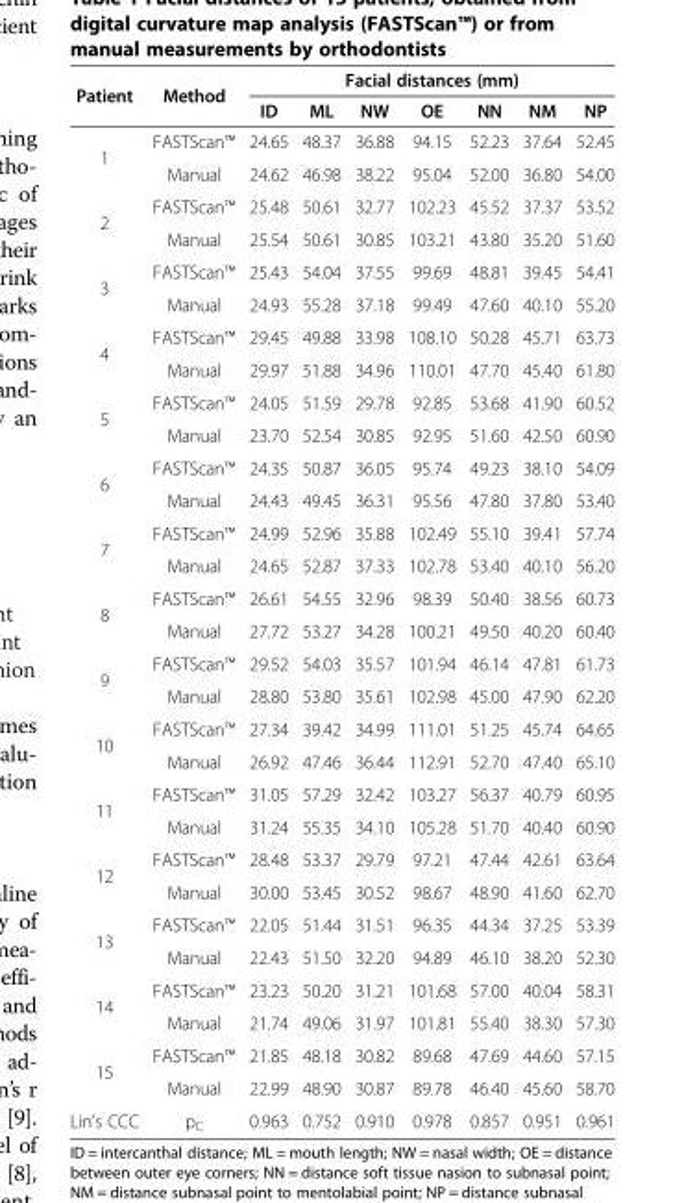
<table><thead><tr><td rowspan="2">Patient</td><td rowspan="2">Method</td><td colspan="7">Facial distances (mm)</td></tr><tr><td>ID</td><td>ML</td><td>NW</td><td>OE</td><td>NN</td><td>NM</td><td>NP</td></tr></thead><tbody><tr><td rowspan="2">1</td><td>FASTScan™</td><td>24.65</td><td>48.37</td><td>36.88</td><td>94.15</td><td>52.23</td><td>37.64</td><td>52.45</td></tr><tr><td>Manual</td><td>24.62</td><td>46.98</td><td>38.22</td><td>95.04</td><td>52.00</td><td>36.80</td><td>54.00</td></tr><tr><td rowspan="2">2</td><td>FASTScan™</td><td>25.48</td><td>50.61</td><td>32.77</td><td>102.23</td><td>45.52</td><td>37.37</td><td>53.52</td></tr><tr><td>Manual</td><td>25.54</td><td>50.61</td><td>30.85</td><td>103.21</td><td>43.80</td><td>35.20</td><td>51.60</td></tr><tr><td rowspan="2">3</td><td>FASTScan™</td><td>25.43</td><td>54.04</td><td>37.55</td><td>99.69</td><td>48.81</td><td>39.45</td><td>54.41</td></tr><tr><td>Manual</td><td>24.93</td><td>55.28</td><td>37.18</td><td>99.49</td><td>47.60</td><td>40.10</td><td>55.20</td></tr><tr><td rowspan="2">4</td><td>FASTScan™</td><td>29.45</td><td>49.88</td><td>33.98</td><td>108.10</td><td>50.28</td><td>45.71</td><td>63.73</td></tr><tr><td>Manual</td><td>29.97</td><td>51.88</td><td>34.96</td><td>110.01</td><td>47.70</td><td>45.40</td><td>61.80</td></tr><tr><td rowspan="2">5</td><td>FASTScan™</td><td>24.05</td><td>51.59</td><td>29.78</td><td>92.85</td><td>53.68</td><td>41.90</td><td>60.52</td></tr><tr><td>Manual</td><td>23.70</td><td>52.54</td><td>30.85</td><td>92.95</td><td>51.60</td><td>42.50</td><td>60.90</td></tr><tr><td rowspan="2">6</td><td>FASTScan™</td><td>24.35</td><td>50.87</td><td>36.05</td><td>95.74</td><td>49.23</td><td>38.10</td><td>54.09</td></tr><tr><td>Manual</td><td>24.43</td><td>49.45</td><td>36.31</td><td>95.56</td><td>47.80</td><td>37.80</td><td>53.40</td></tr><tr><td rowspan="2">7</td><td>FASTScan™</td><td>24.99</td><td>52.96</td><td>35.88</td><td>102.49</td><td>55.10</td><td>39.41</td><td>57.74</td></tr><tr><td>Manual</td><td>24.65</td><td>52.87</td><td>37.33</td><td>102.78</td><td>53.40</td><td>40.10</td><td>56.20</td></tr><tr><td rowspan="2">8</td><td>FASTScan™</td><td>26.61</td><td>54.55</td><td>32.96</td><td>98.39</td><td>50.40</td><td>38.56</td><td>60.73</td></tr><tr><td>Manual</td><td>27.72</td><td>53.27</td><td>34.28</td><td>100.21</td><td>49.50</td><td>40.20</td><td>60.40</td></tr><tr><td rowspan="2">9</td><td>FASTScan™</td><td>29.52</td><td>54.03</td><td>35.57</td><td>101.94</td><td>46.14</td><td>47.81</td><td>61.73</td></tr><tr><td>Manual</td><td>28.80</td><td>53.80</td><td>35.61</td><td>102.98</td><td>45.00</td><td>47.90</td><td>62.20</td></tr><tr><td rowspan="2">10</td><td>FASTScan™</td><td>27.34</td><td>39.42</td><td>34.99</td><td>111.01</td><td>51.25</td><td>45.74</td><td>64.65</td></tr><tr><td>Manual</td><td>26.92</td><td>47.46</td><td>36.44</td><td>112.91</td><td>52.70</td><td>47.40</td><td>65.10</td></tr><tr><td rowspan="2">11</td><td>FASTScan™</td><td>31.05</td><td>57.29</td><td>32.42</td><td>103.27</td><td>56.37</td><td>40.79</td><td>60.95</td></tr><tr><td>Manual</td><td>31.24</td><td>55.35</td><td>34.10</td><td>105.28</td><td>51.70</td><td>40.40</td><td>60.90</td></tr><tr><td rowspan="2">12</td><td>FASTScan™</td><td>28.48</td><td>53.37</td><td>29.79</td><td>97.21</td><td>47.44</td><td>42.61</td><td>63.64</td></tr><tr><td>Manual</td><td>30.00</td><td>53.45</td><td>30.52</td><td>98.67</td><td>48.90</td><td>41.60</td><td>62.70</td></tr><tr><td rowspan="2">13</td><td>FASTScan™</td><td>22.05</td><td>51.44</td><td>31.51</td><td>96.35</td><td>44.34</td><td>37.25</td><td>53.39</td></tr><tr><td>Manual</td><td>22.43</td><td>51.50</td><td>32.20</td><td>94.89</td><td>46.10</td><td>38.20</td><td>52.30</td></tr><tr><td rowspan="2">14</td><td>FASTScan™</td><td>23.23</td><td>50.20</td><td>31.21</td><td>101.68</td><td>57.00</td><td>40.04</td><td>58.31</td></tr><tr><td>Manual</td><td>21.74</td><td>49.06</td><td>31.97</td><td>101.81</td><td>55.40</td><td>38.30</td><td>57.30</td></tr><tr><td rowspan="2">15</td><td>FASTScan™</td><td>21.85</td><td>48.18</td><td>30.82</td><td>89.68</td><td>47.69</td><td>44.60</td><td>57.15</td></tr><tr><td>Manual</td><td>22.99</td><td>48.90</td><td>30.87</td><td>89.78</td><td>46.40</td><td>45.60</td><td>58.70</td></tr><tr><td>Lin’s CCC</td><td>p<sub>C</sub></td><td>0.963</td><td>0.752</td><td>0.910</td><td>0.978</td><td>0.857</td><td>0.951</td><td>0.961</td></tr></tbody></table>